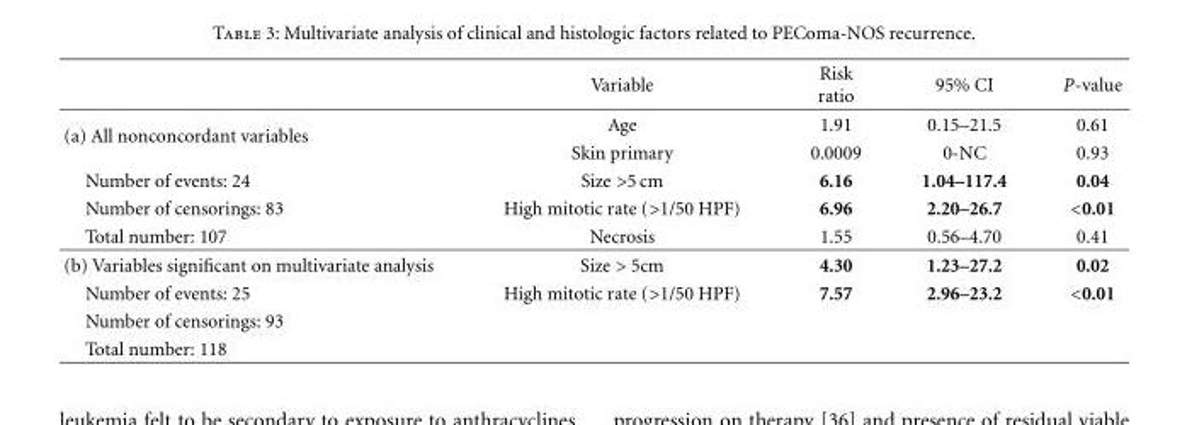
<table><thead><tr><td></td><td>Variable</td><td>Risk ratio</td><td>95% CI</td><td>P-value</td></tr></thead><tbody><tr><td rowspan="2">(a) All nonconcordant variables</td><td>Age</td><td>1.91</td><td>0.15–21.5</td><td>0.61</td></tr><tr><td>Skin primary</td><td>0.0009</td><td>0-NC</td><td>0.93</td></tr><tr><td>Number of events: 24</td><td>Size &gt;5 cm</td><td>6.16</td><td>1.04–117.4</td><td>0.04</td></tr><tr><td>Number of censorings: 83</td><td>High mitotic rate (&gt;1/50 HPF)</td><td>6.96</td><td>2.20–26.7</td><td>&lt;0.01</td></tr><tr><td>Total number: 107</td><td>Necrosis</td><td>1.55</td><td>0.56–4.70</td><td>0.41</td></tr><tr><td>(b) Variables significant on multivariate analysis</td><td>Size &gt; 5cm</td><td>4.30</td><td>1.23–27.2</td><td>0.02</td></tr><tr><td>Number of events: 25</td><td>High mitotic rate (&gt;1/50 HPF)</td><td>7.57</td><td>2.96–23.2</td><td>&lt;0.01</td></tr><tr><td colspan="5">Number of censorings: 93</td></tr><tr><td>Total number: 118</td><td></td><td></td><td></td><td></td></tr></tbody></table>